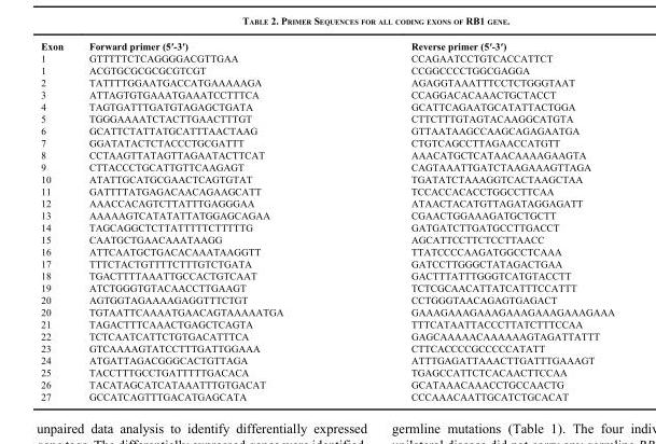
<table><thead><tr><td>Exon</td><td>Forward primer (5′-3′)</td><td>Reverse primer (5′-3′)</td></tr></thead><tbody><tr><td>1</td><td>GTTTTTCTCAGGGGACGTTGAA</td><td>CCAGAATCCTGTCACCATTCT</td></tr><tr><td>1</td><td>ACGTGCGCGCGCGTCGT</td><td>CCGGCCCCTGGCGAGGA</td></tr><tr><td>2</td><td>TATTTTGGAATGACCATGAAAAAGA</td><td>AGAGGTAAATTTCCTCTGGGTAAT</td></tr><tr><td>3</td><td>ATTAGTGTGAAATGAAATCCTTTCA</td><td>CCAGGACACAAACTGCTACCT</td></tr><tr><td>4</td><td>TAGTGATTTGATGTAGAGCTGATA</td><td>GCATTCAGAATGCATATTACTGGA</td></tr><tr><td>5</td><td>TGGGAAAATCTACTTGAACTTTGT</td><td>CTTCTTTGTAGTACAAGGCATGTA</td></tr><tr><td>6</td><td>GCATTCTATTATGCATTTAACTAAG</td><td>GTTAATAAGCCAAGCAGAGAATGA</td></tr><tr><td>7</td><td>GGATATACTCTACCCTGCGATTT</td><td>CTGTCAGCCTTAGAACCATGTT</td></tr><tr><td>8</td><td>CCTAAGTTATAGTTAGAATACTTCAT</td><td>AAACATGCTCATAACAAAAGAAGTA</td></tr><tr><td>9</td><td>CTTACCCTGCATTGTTCAAGAGT</td><td>CAGTAAATTGATCTAAGAAAGTTAGA</td></tr><tr><td>10</td><td>ATATTGCATGCGAACTCAGTGTAT</td><td>TGATATCTAAAGGTCACTAAGCTAA</td></tr><tr><td>11</td><td>GATTTTATGAGACAACAGAAGCATT</td><td>TCCACCACACCTGGCCTTCAA</td></tr><tr><td>12</td><td>AAACCACAGTCTTATTTGAGGGAA</td><td>ATAACTACATGTTAGATAGGAGATT</td></tr><tr><td>13</td><td>AAAAAGTCATATATTATGGAGCAGAA</td><td>CGAACTGGAAAGATGCTGCTT</td></tr><tr><td>14</td><td>TAGCAGGCTCTTATTTTTCTTTTTG</td><td>GATGATCTTGATGCCTTGACCT</td></tr><tr><td>15</td><td>CAATGCTGAACAAATAAGG</td><td>AGCATTCCTTCTCCTTAACC</td></tr><tr><td>16</td><td>ATTCAATGCTGACACAAATAAGGTT</td><td>TTATCCCCAAGATGGCCTCAAA</td></tr><tr><td>17</td><td>TTTCTACTGTTTTCTTTGTCTGATA</td><td>GATCCTTGGGCTATAGACTGAA</td></tr><tr><td>18</td><td>TGACTTTTAAATTGCCACTGTCAAT</td><td>GACTTTATTTGGGTCATGTACCTT</td></tr><tr><td>19</td><td>ATCTGGGTGTACAACCTTGAAGT</td><td>TCTCGCAACATTATCATTTCCATTT</td></tr><tr><td>20</td><td>AGTGGTAGAAAAGAGGTTTCTGT</td><td>CCTGGGTAACAGAGTGAGACT</td></tr><tr><td>20</td><td>TGTAATTCAAAATGAACAGTAAAAATGA</td><td>GAAAGAAAGAAAGAAAGAAAGAAAGAAA</td></tr><tr><td>21</td><td>TAGACTTTCAAACTGAGCTCAGTA</td><td>TTTCATAATTACCCTTATCTTTCCAA</td></tr><tr><td>22</td><td>TCTCAATCATTCTGTGACATTTCA</td><td>GAGCAAAAACAAAAAAGTAGATTATTT</td></tr><tr><td>23</td><td>GTCAAAAGTATCCTTTGATTGGAAA</td><td>CTTCACCCCGCCCCCATATT</td></tr><tr><td>24</td><td>ATGATTAGACGGGCACTGTTAGA</td><td>ATTTGAGATTAAACTTGATTTGAAAGT</td></tr><tr><td>25</td><td>TACCTTTGCCTGATTTTTGACACA</td><td>TGAGCCATTCTCACAACTTCCAA</td></tr><tr><td>26</td><td>TACATAGCATCATAAATTTGTGACAT</td><td>GCATAAACAAACCTGCCAACTG</td></tr><tr><td>27</td><td>GCCATCAGTTTGACATGAGCATA</td><td>CCCAAACAATTGCATCTGCACAT</td></tr></tbody></table>